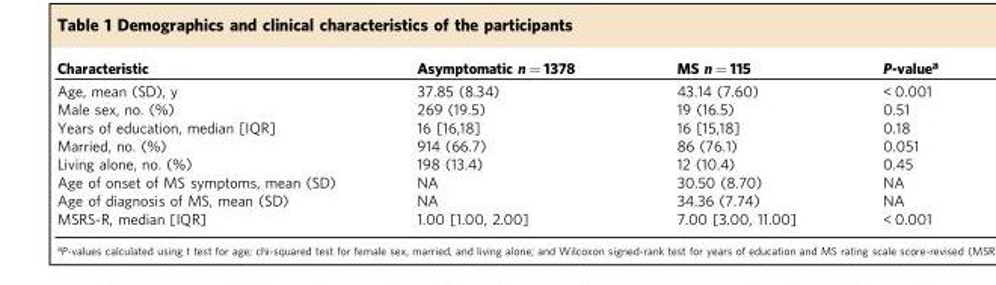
<table><thead><tr><td>Characteristic</td><td>Asymptomatic n = 1378</td><td>MS n = 115</td><td>P-value<sup>a</sup></td></tr></thead><tbody><tr><td>Age, mean (SD), y</td><td>37.85 (8.34)</td><td>43.14 (7.60)</td><td>&lt; 0.001</td></tr><tr><td>Male sex, no. (%)</td><td>269 (19.5)</td><td>19 (16.5)</td><td>0.51</td></tr><tr><td>Years of education, median [IQR]</td><td>16 [16,18]</td><td>16 [15,18]</td><td>0.18</td></tr><tr><td>Married, no. (%)</td><td>914 (66.7)</td><td>86 (76.1)</td><td>0.051</td></tr><tr><td>Living alone, no. (%)</td><td>198 (13.4)</td><td>12 (10.4)</td><td>0.45</td></tr><tr><td>Age of onset of MS symptoms, mean (SD)</td><td>NA</td><td>30.50 (8.70)</td><td>NA</td></tr><tr><td>Age of diagnosis of MS, mean (SD)</td><td>NA</td><td>34.36 (7.74)</td><td>NA</td></tr><tr><td>MSRS-R, median [IQR]</td><td>1.00 [1.00, 2.00]</td><td>7.00 [3.00, 11.00]</td><td>&lt; 0.001</td></tr></tbody></table>